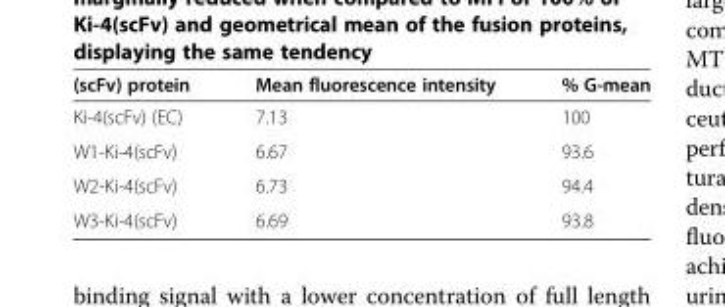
<table><thead><tr><td>(scFv) protein</td><td>Mean fluorescence intensity</td><td>% G-mean</td></tr></thead><tbody><tr><td>Ki-4(scFv) (EC)</td><td>7.13</td><td>100</td></tr><tr><td>W1-Ki-4(scFv)</td><td>6.67</td><td>93.6</td></tr><tr><td>W2-Ki-4(scFv)</td><td>6.73</td><td>94.4</td></tr><tr><td>W3-Ki-4(scFv)</td><td>6.69</td><td>93.8</td></tr></tbody></table>